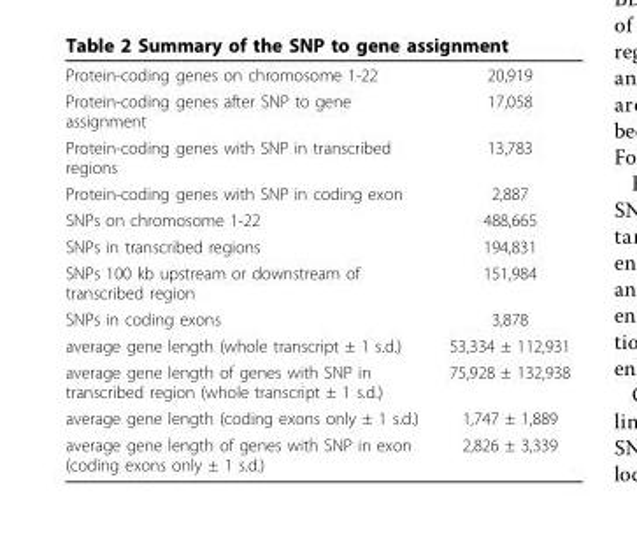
<table><tbody><tr><td>Protein-coding genes on chromosome 1-22</td><td>20,919</td></tr><tr><td>Protein-coding genes after SNP to gene assignment</td><td>17,058</td></tr><tr><td>Protein-coding genes with SNP in transcribed regions</td><td>13,783</td></tr><tr><td>Protein-coding genes with SNP in coding exon</td><td>2,887</td></tr><tr><td>SNPs on chromosome 1-22</td><td>488,665</td></tr><tr><td>SNPs in transcribed regions</td><td>194,831</td></tr><tr><td>SNPs 100 kb upstream or downstream of transcribed region</td><td>151,984</td></tr><tr><td>SNPs in coding exons</td><td>3,878</td></tr><tr><td>average gene length (whole transcript ± 1 s.d.)</td><td>53,334 ± 112,931</td></tr><tr><td>average gene length of genes with SNP in transcribed region (whole transcript ± 1 s.d.)</td><td>75,928 ± 132,938</td></tr><tr><td>average gene length (coding exons only ± 1 s.d.)</td><td>1,747 ± 1,889</td></tr><tr><td>average gene length of genes with SNP in exon (coding exons only ± 1 s.d.)</td><td>2,826 ± 3,339</td></tr></tbody></table>